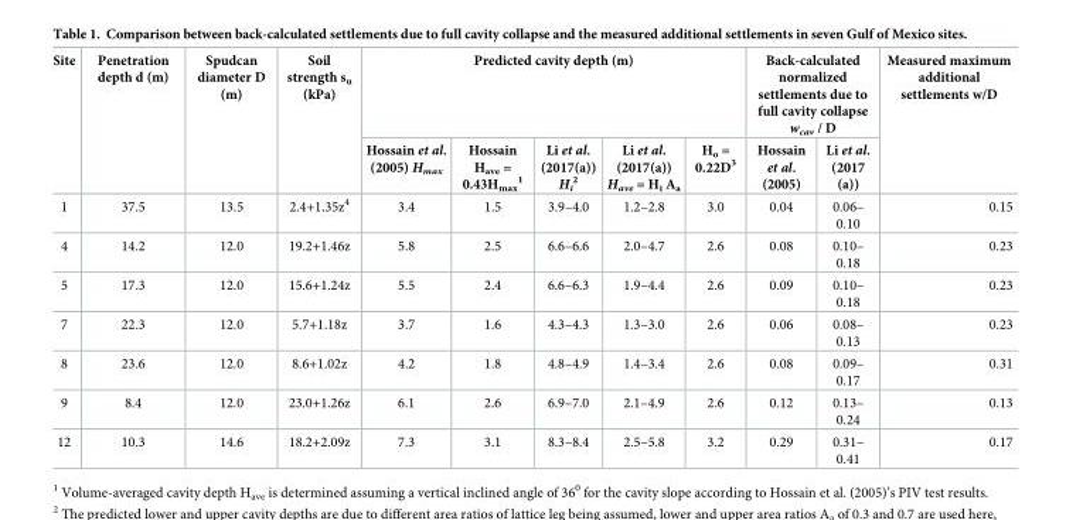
<table><thead><tr><td rowspan="2">Site</td><td rowspan="2">Penetration depth d (m)</td><td rowspan="2">Spudcan diameter D (m)</td><td rowspan="2">Soil strength s<sub>u</sub> (kPa)</td><td colspan="5">Predicted cavity depth (m)</td><td colspan="2">Back-calculated normalized settlements due to full cavity collapse w<sub>cav</sub> / D</td><td rowspan="2">Measured maximum additional settlements w/D</td></tr><tr><td>Hossain et al. (2005) H<sub>max</sub></td><td>Hossain H<sub>ave</sub> = 0.43H<sub>max</sub> <sup>1</sup></td><td>Li et al. (2017(a)) H<sub>i</sub> <sup>2</sup></td><td>Li et al. (2017(a)) H<sub>ave</sub> = H<sub>i</sub> A<sub>a</sub></td><td>H<sub>o</sub> = 0.22D<sup>3</sup></td><td>Hossain et al. (2005)</td><td>Li et al. (2017 (a))</td></tr></thead><tbody><tr><td>1</td><td>37.5</td><td>13.5</td><td>2.4+1.35z<sup>4</sup></td><td>3.4</td><td>1.5</td><td>3.9–4.0</td><td>1.2–2.8</td><td>3.0</td><td>0.04</td><td>0.06– 0.10</td><td>0.15</td></tr><tr><td>4</td><td>14.2</td><td>12.0</td><td>19.2+1.46z</td><td>5.8</td><td>2.5</td><td>6.6–6.6</td><td>2.0–4.7</td><td>2.6</td><td>0.08</td><td>0.10– 0.18</td><td>0.23</td></tr><tr><td>5</td><td>17.3</td><td>12.0</td><td>15.6+1.24z</td><td>5.5</td><td>2.4</td><td>6.6–6.3</td><td>1.9–4.4</td><td>2.6</td><td>0.09</td><td>0.10– 0.18</td><td>0.23</td></tr><tr><td>7</td><td>22.3</td><td>12.0</td><td>5.7+1.18z</td><td>3.7</td><td>1.6</td><td>4.3–4.3</td><td>1.3–3.0</td><td>2.6</td><td>0.06</td><td>0.08– 0.13</td><td>0.23</td></tr><tr><td>8</td><td>23.6</td><td>12.0</td><td>8.6+1.02z</td><td>4.2</td><td>1.8</td><td>4.8–4.9</td><td>1.4–3.4</td><td>2.6</td><td>0.08</td><td>0.09– 0.17</td><td>0.31</td></tr><tr><td>9</td><td>8.4</td><td>12.0</td><td>23.0+1.26z</td><td>6.1</td><td>2.6</td><td>6.9–7.0</td><td>2.1–4.9</td><td>2.6</td><td>0.12</td><td>0.13– 0.24</td><td>0.13</td></tr><tr><td>12</td><td>10.3</td><td>14.6</td><td>18.2+2.09z</td><td>7.3</td><td>3.1</td><td>8.3–8.4</td><td>2.5–5.8</td><td>3.2</td><td>0.29</td><td>0.31– 0.41</td><td>0.17</td></tr></tbody></table>